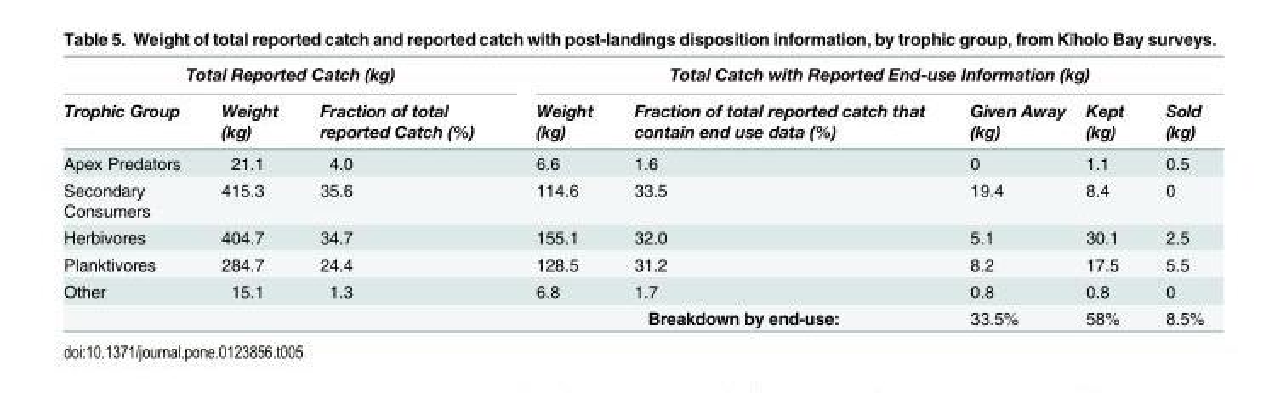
<table><thead><tr><td colspan="3">Total Reported Catch (kg)</td><td colspan="5">Total Catch with Reported End-use Information (kg)</td></tr><tr><td>Trophic Group</td><td>Weight (kg)</td><td>Fraction of total reported Catch (%)</td><td>Weight (kg)</td><td>Fraction of total reported catch that contain end use data (%)</td><td>Given Away (kg)</td><td>Kept (kg)</td><td>Sold (kg)</td></tr></thead><tbody><tr><td>Apex Predators</td><td>21.1</td><td>4.0</td><td>6.6</td><td>1.6</td><td>0</td><td>1.1</td><td>0.5</td></tr><tr><td>Secondary Consumers</td><td>415.3</td><td>35.6</td><td>114.6</td><td>33.5</td><td>19.4</td><td>8.4</td><td>0</td></tr><tr><td>Herbivores</td><td>404.7</td><td>34.7</td><td>155.1</td><td>32.0</td><td>5.1</td><td>30.1</td><td>2.5</td></tr><tr><td>Planktivores</td><td>284.7</td><td>24.4</td><td>128.5</td><td>31.2</td><td>8.2</td><td>17.5</td><td>5.5</td></tr><tr><td rowspan="2">Other</td><td>15.1</td><td>1.3</td><td>6.8</td><td>1.7</td><td>0.8</td><td>0.8</td><td>0</td></tr><tr><td></td><td></td><td colspan="2">Breakdown by end-use:</td><td>33.5%</td><td>58%</td><td>8.5%</td></tr></tbody></table>